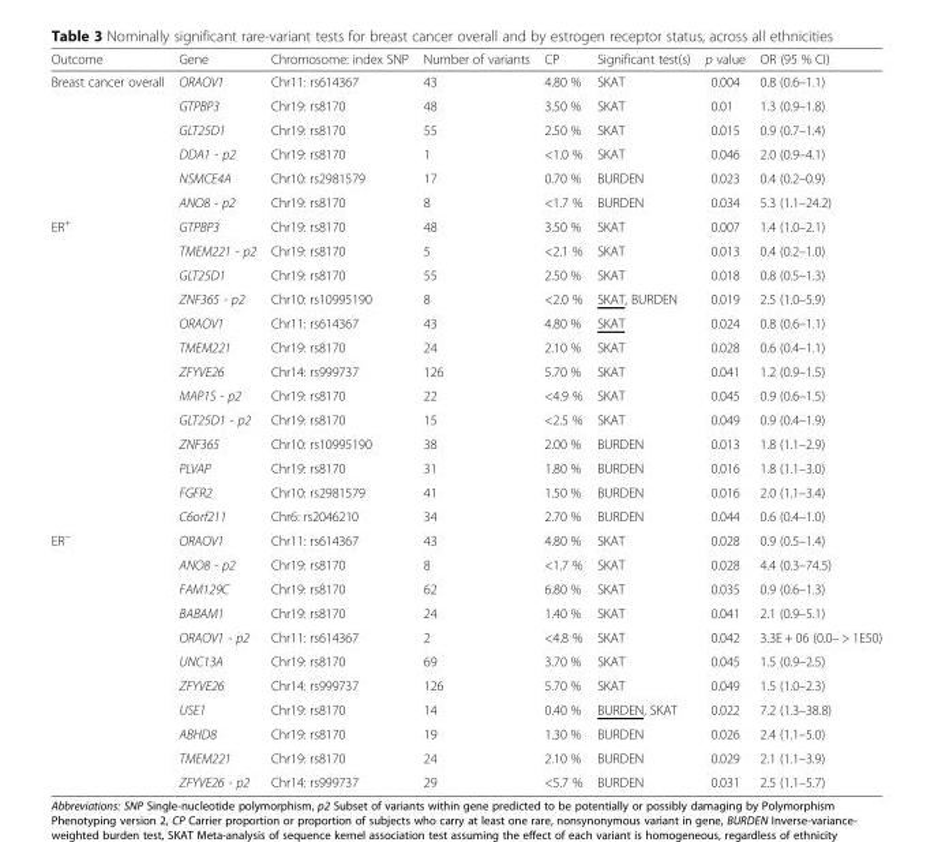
<table><thead><tr><td>Outcome</td><td>Gene</td><td>Chromosome: index SNP</td><td>Number of variants</td><td>CP</td><td>Significant test(s)</td><td>p value</td><td>OR (95 % CI)</td></tr></thead><tbody><tr><td rowspan="6">Breast cancer overall</td><td>ORAOV1</td><td>Chr11: rs614367</td><td>43</td><td>4.80 %</td><td>SKAT</td><td>0.004</td><td>0.8 (0.6–1.1)</td></tr><tr><td>GTPBP3</td><td>Chr19: rs8170</td><td>48</td><td>3.50 %</td><td>SKAT</td><td>0.01</td><td>1.3 (0.9–1.8)</td></tr><tr><td>GLT25D1</td><td>Chr19: rs8170</td><td>55</td><td>2.50 %</td><td>SKAT</td><td>0.015</td><td>0.9 (0.7–1.4)</td></tr><tr><td>DDA1 - p2</td><td>Chr19: rs8170</td><td>1</td><td>&lt;1.0 %</td><td>SKAT</td><td>0.046</td><td>2.0 (0.9–4.1)</td></tr><tr><td>NSMCE4A</td><td>Chr10: rs2981579</td><td>17</td><td>0.70 %</td><td>BURDEN</td><td>0.023</td><td>0.4 (0.2–0.9)</td></tr><tr><td>ANO8 - p2</td><td>Chr19: rs8170</td><td>8</td><td>&lt;1.7 %</td><td>BURDEN</td><td>0.034</td><td>5.3 (1.1–24.2)</td></tr><tr><td rowspan="13">ER<sup>+</sup></td><td>GTPBP3</td><td>Chr19: rs8170</td><td>48</td><td>3.50 %</td><td>SKAT</td><td>0.007</td><td>1.4 (1.0–2.1)</td></tr><tr><td>TMEM221 - p2</td><td>Chr19: rs8170</td><td>5</td><td>&lt;2.1 %</td><td>SKAT</td><td>0.013</td><td>0.4 (0.2–1.0)</td></tr><tr><td>GLT25D1</td><td>Chr19: rs8170</td><td>55</td><td>2.50 %</td><td>SKAT</td><td>0.018</td><td>0.8 (0.5–1.3)</td></tr><tr><td>ZNF365 - p2</td><td>Chr10: rs10995190</td><td>8</td><td>&lt;2.0 %</td><td>SKAT, BURDEN</td><td>0.019</td><td>2.5 (1.0–5.9)</td></tr><tr><td>ORAOV1</td><td>Chr11: rs614367</td><td>43</td><td>4.80 %</td><td>SKAT</td><td>0.024</td><td>0.8 (0.6–1.1)</td></tr><tr><td>TMEM221</td><td>Chr19: rs8170</td><td>24</td><td>2.10 %</td><td>SKAT</td><td>0.028</td><td>0.6 (0.4–1.1)</td></tr><tr><td>ZFYVE26</td><td>Chr14: rs999737</td><td>126</td><td>5.70 %</td><td>SKAT</td><td>0.041</td><td>1.2 (0.9–1.5)</td></tr><tr><td>MAP1S - p2</td><td>Chr19: rs8170</td><td>22</td><td>&lt;4.9 %</td><td>SKAT</td><td>0.045</td><td>0.9 (0.6–1.5)</td></tr><tr><td>GLT25D1 - p2</td><td>Chr19: rs8170</td><td>15</td><td>&lt;2.5 %</td><td>SKAT</td><td>0.049</td><td>0.9 (0.4–1.9)</td></tr><tr><td>ZNF365</td><td>Chr10: rs10995190</td><td>38</td><td>2.00 %</td><td>BURDEN</td><td>0.013</td><td>1.8 (1.1–2.9)</td></tr><tr><td>PLVAP</td><td>Chr19: rs8170</td><td>31</td><td>1.80 %</td><td>BURDEN</td><td>0.016</td><td>1.8 (1.1–3.0)</td></tr><tr><td>FGFR2</td><td>Chr10: rs2981579</td><td>41</td><td>1.50 %</td><td>BURDEN</td><td>0.016</td><td>2.0 (1.1–3.4)</td></tr><tr><td>C6orf211</td><td>Chr6: rs2046210</td><td>34</td><td>2.70 %</td><td>BURDEN</td><td>0.044</td><td>0.6 (0.4–1.0)</td></tr><tr><td rowspan="11">ER<sup>−</sup></td><td>ORAOV1</td><td>Chr11: rs614367</td><td>43</td><td>4.80 %</td><td>SKAT</td><td>0.028</td><td>0.9 (0.5–1.4)</td></tr><tr><td>ANO8 - p2</td><td>Chr19: rs8170</td><td>8</td><td>&lt;1.7 %</td><td>SKAT</td><td>0.028</td><td>4.4 (0.3–74.5)</td></tr><tr><td>FAM129C</td><td>Chr19: rs8170</td><td>62</td><td>6.80 %</td><td>SKAT</td><td>0.035</td><td>0.9 (0.6–1.3)</td></tr><tr><td>BABAM1</td><td>Chr19: rs8170</td><td>24</td><td>1.40 %</td><td>SKAT</td><td>0.041</td><td>2.1 (0.9–5.1)</td></tr><tr><td>ORAOV1 - p2</td><td>Chr11: rs614367</td><td>2</td><td>&lt;4.8 %</td><td>SKAT</td><td>0.042</td><td>3.3E + 06 (0.0– &gt; 1E50)</td></tr><tr><td>UNC13A</td><td>Chr19: rs8170</td><td>69</td><td>3.70 %</td><td>SKAT</td><td>0.045</td><td>1.5 (0.9–2.5)</td></tr><tr><td>ZFYVE26</td><td>Chr14: rs999737</td><td>126</td><td>5.70 %</td><td>SKAT</td><td>0.049</td><td>1.5 (1.0–2.3)</td></tr><tr><td>USE1</td><td>Chr19: rs8170</td><td>14</td><td>0.40 %</td><td>BURDEN, SKAT</td><td>0.022</td><td>7.2 (1.3–38.8)</td></tr><tr><td>ABHD8</td><td>Chr19: rs8170</td><td>19</td><td>1.30 %</td><td>BURDEN</td><td>0.026</td><td>2.4 (1.1–5.0)</td></tr><tr><td>TMEM221</td><td>Chr19: rs8170</td><td>24</td><td>2.10 %</td><td>BURDEN</td><td>0.029</td><td>2.1 (1.1–3.9)</td></tr><tr><td>ZFYVE26 - p2</td><td>Chr14: rs999737</td><td>29</td><td>&lt;5.7 %</td><td>BURDEN</td><td>0.031</td><td>2.5 (1.1–5.7)</td></tr></tbody></table>